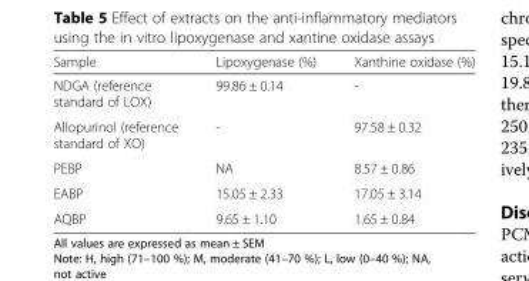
<table><thead><tr><td>Sample</td><td>Lipoxygenase (%)</td><td>Xanthine oxidase (%)</td></tr></thead><tbody><tr><td>NDGA (reference standard of LOX)</td><td>99.86 ± 0.14</td><td>-</td></tr><tr><td>Allopurinol (reference standard of XO)</td><td>-</td><td>97.58 ± 0.32</td></tr><tr><td>PEBP</td><td>NA</td><td>8.57 ± 0.86</td></tr><tr><td>EABP</td><td>15.05 ± 2.33</td><td>17.05 ± 3.14</td></tr><tr><td>AQBP</td><td>9.65 ± 1.10</td><td>1.65 ± 0.84</td></tr></tbody></table>